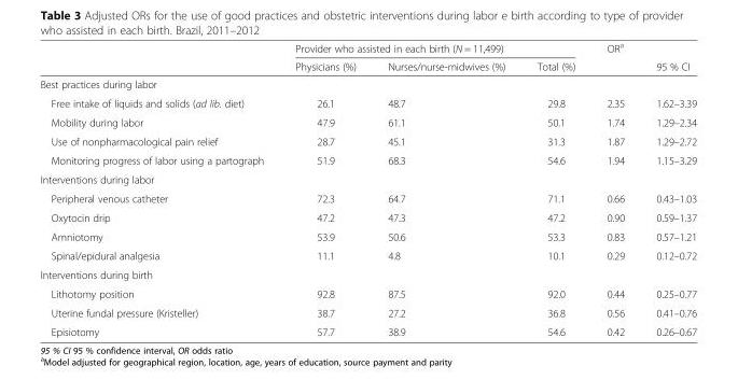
<table><thead><tr><td rowspan="2"></td><td colspan="3">Provider who assisted in each birth (N = 11,499)</td><td rowspan="2">OR<sup>a</sup></td><td rowspan="2">95 % CI</td></tr><tr><td>Physicians (%)</td><td>Nurses/nurse-midwives (%)</td><td>Total (%)</td></tr></thead><tbody><tr><td colspan="6">Best practices during labor</td></tr><tr><td>Free intake of liquids and solids (ad lib. diet)</td><td>26.1</td><td>48.7</td><td>29.8</td><td>2.35</td><td>1.62–3.39</td></tr><tr><td>Mobility during labor</td><td>47.9</td><td>61.1</td><td>50.1</td><td>1.74</td><td>1.29–2.34</td></tr><tr><td>Use of nonpharmacological pain relief</td><td>28.7</td><td>45.1</td><td>31.3</td><td>1.87</td><td>1.29–2.72</td></tr><tr><td>Monitoring progress of labor using a partograph</td><td>51.9</td><td>68.3</td><td>54.6</td><td>1.94</td><td>1.15–3.29</td></tr><tr><td colspan="6">Interventions during labor</td></tr><tr><td>Peripheral venous catheter</td><td>72.3</td><td>64.7</td><td>71.1</td><td>0.66</td><td>0.43–1.03</td></tr><tr><td>Oxytocin drip</td><td>47.2</td><td>47.3</td><td>47.2</td><td>0.90</td><td>0.59–1.37</td></tr><tr><td>Amniotomy</td><td>53.9</td><td>50.6</td><td>53.3</td><td>0.83</td><td>0.57–1.21</td></tr><tr><td>Spinal/epidural analgesia</td><td>11.1</td><td>4.8</td><td>10.1</td><td>0.29</td><td>0.12–0.72</td></tr><tr><td colspan="6">Interventions during birth</td></tr><tr><td>Lithotomy position</td><td>92.8</td><td>87.5</td><td>92.0</td><td>0.44</td><td>0.25–0.77</td></tr><tr><td>Uterine fundal pressure (Kristeller)</td><td>38.7</td><td>27.2</td><td>36.8</td><td>0.56</td><td>0.41–0.76</td></tr><tr><td>Episiotomy</td><td>57.7</td><td>38.9</td><td>54.6</td><td>0.42</td><td>0.26–0.67</td></tr></tbody></table>